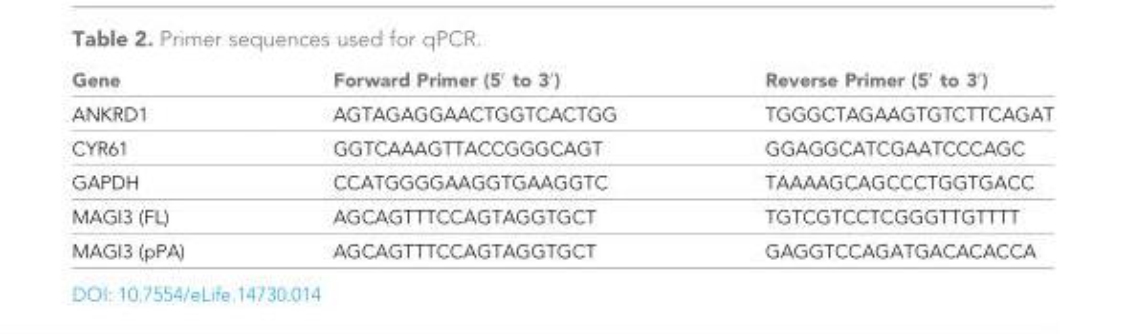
<table><thead><tr><td>Gene</td><td>Forward Primer (5′ to 3′)</td><td>Reverse Primer (5′ to 3′)</td></tr></thead><tbody><tr><td>ANKRD1</td><td>AGTAGAGGAACTGGTCACTGG</td><td>TGGGCTAGAAGTGTCTTCAGAT</td></tr><tr><td>CYR61</td><td>GGTCAAAGTTACCGGGCAGT</td><td>GGAGGCATCGAATCCCAGC</td></tr><tr><td>GAPDH</td><td>CCATGGGGAAGGTGAAGGTC</td><td>TAAAAGCAGCCCTGGTGACC</td></tr><tr><td>MAGI3 (FL)</td><td>AGCAGTTTCCAGTAGGTGCT</td><td>TGTCGTCCTCGGGTTGTTTT</td></tr><tr><td>MAGI3 (pPA)</td><td>AGCAGTTTCCAGTAGGTGCT</td><td>GAGGTCCAGATGACACACCA</td></tr></tbody></table>